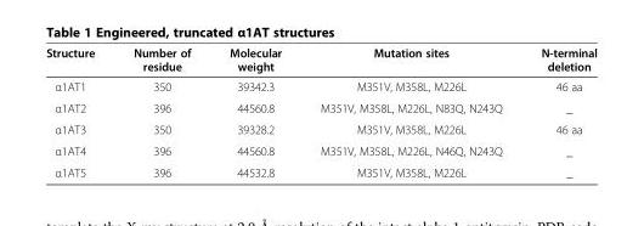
<table><thead><tr><td>Structure</td><td>Number of residue</td><td>Molecular weight</td><td>Mutation sites</td><td>N-terminal deletion</td></tr></thead><tbody><tr><td>α1AT1</td><td>350</td><td>39342.3</td><td>M351V, M358L, M226L</td><td>46 aa</td></tr><tr><td>α1AT2</td><td>396</td><td>44560.8</td><td>M351V, M358L, M226L, N83Q, N243Q</td><td>_</td></tr><tr><td>α1AT3</td><td>350</td><td>39328.2</td><td>M351V, M358L, M226L</td><td>46 aa</td></tr><tr><td>α1AT4</td><td>396</td><td>44560.8</td><td>M351V, M358L, M226L, N46Q, N243Q</td><td>_</td></tr><tr><td>α1AT5</td><td>396</td><td>44532.8</td><td>M351V, M358L, M226L</td><td>_</td></tr></tbody></table>